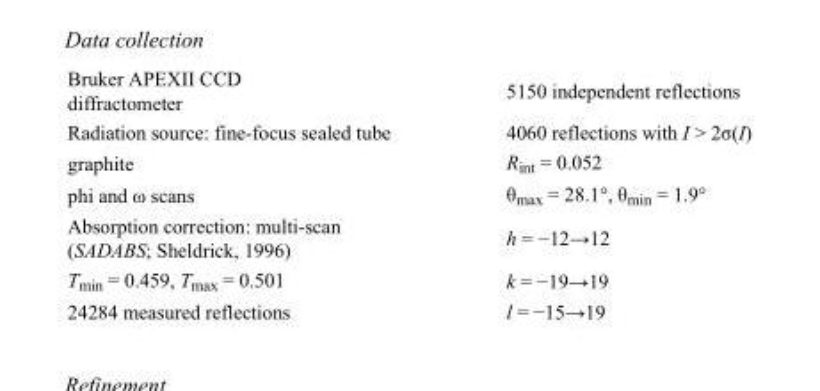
<table><tbody><tr><td>Bruker APEXII CCD diffractometer</td><td>5150 independent reflections</td></tr><tr><td>Radiation source: fine-focus sealed tube</td><td>4060 reflections with I &gt; 2σ(I)</td></tr><tr><td>graphite</td><td>R<sub>int</sub> = 0.052</td></tr><tr><td>phi and ω scans</td><td>θ<sub>max</sub> = 28.1°, θ<sub>min</sub> = 1.9°</td></tr><tr><td>Absorption correction: multi-scan (SADABS; Sheldrick, 1996)</td><td>h = −12→12</td></tr><tr><td>T<sub>min</sub> = 0.459, T<sub>max</sub> = 0.501</td><td>k = −19→19</td></tr><tr><td>24284 measured reflections</td><td>l = −15→19</td></tr></tbody></table>